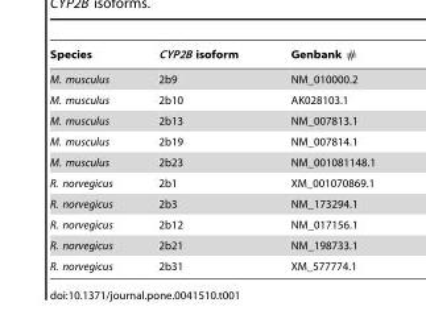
<table><thead><tr><td>Species</td><td>CYP2B isoform</td><td>Genbank #</td></tr></thead><tbody><tr><td>M. musculus</td><td>2b9</td><td>NM_010000.2</td></tr><tr><td>M. musculus</td><td>2b10</td><td>AK028103.1</td></tr><tr><td>M. musculus</td><td>2b13</td><td>NM_007813.1</td></tr><tr><td>M. musculus</td><td>2b19</td><td>NM_007814.1</td></tr><tr><td>M. musculus</td><td>2b23</td><td>NM_001081148.1</td></tr><tr><td>R. norvegicus</td><td>2b1</td><td>XM_001070869.1</td></tr><tr><td>R. norvegicus</td><td>2b3</td><td>NM_173294.1</td></tr><tr><td>R. norvegicus</td><td>2b12</td><td>NM_017156.1</td></tr><tr><td>R. norvegicus</td><td>2b21</td><td>NM_198733.1</td></tr><tr><td>R. norvegicus</td><td>2b31</td><td>XM_577774.1</td></tr></tbody></table>